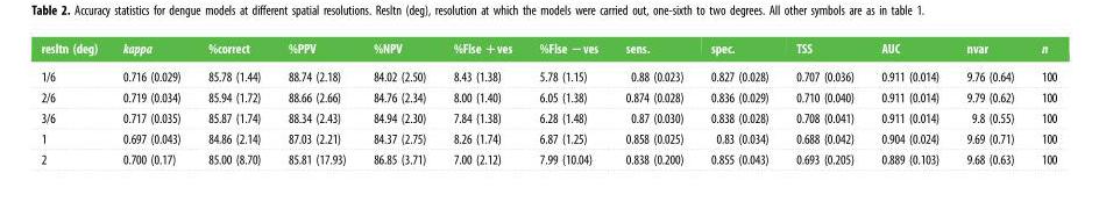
<table><thead><tr><td>resltn (deg)</td><td>kappa</td><td>%correct</td><td>%PPV</td><td>%NPV</td><td>%Flse +ves</td><td>%Flse −ves</td><td>sens.</td><td>spec.</td><td>TSS</td><td>AUC</td><td>nvar</td><td>n</td></tr></thead><tbody><tr><td>1/6</td><td>0.716 (0.029)</td><td>85.78 (1.44)</td><td>88.74 (2.18)</td><td>84.02 (2.50)</td><td>8.43 (1.38)</td><td>5.78 (1.15)</td><td>0.88 (0.023)</td><td>0.827 (0.028)</td><td>0.707 (0.036)</td><td>0.911 (0.014)</td><td>9.76 (0.64)</td><td>100</td></tr><tr><td>2/6</td><td>0.719 (0.034)</td><td>85.94 (1.72)</td><td>88.66 (2.66)</td><td>84.76 (2.34)</td><td>8.00 (1.40)</td><td>6.05 (1.38)</td><td>0.874 (0.028)</td><td>0.836 (0.029)</td><td>0.710 (0.040)</td><td>0.911 (0.014)</td><td>9.79 (0.62)</td><td>100</td></tr><tr><td>3/6</td><td>0.717 (0.035)</td><td>85.87 (1.74)</td><td>88.34 (2.43)</td><td>84.94 (2.30)</td><td>7.84 (1.38)</td><td>6.28 (1.48)</td><td>0.87 (0.030)</td><td>0.838 (0.028)</td><td>0.708 (0.041)</td><td>0.911 (0.014)</td><td>9.8 (0.55)</td><td>100</td></tr><tr><td>1</td><td>0.697 (0.043)</td><td>84.86 (2.14)</td><td>87.03 (2.21)</td><td>84.37 (2.75)</td><td>8.26 (1.74)</td><td>6.87 (1.25)</td><td>0.858 (0.025)</td><td>0.83 (0.034)</td><td>0.688 (0.042)</td><td>0.904 (0.024)</td><td>9.69 (0.71)</td><td>100</td></tr><tr><td>2</td><td>0.700 (0.17)</td><td>85.00 (8.70)</td><td>85.81 (17.93)</td><td>86.85 (3.71)</td><td>7.00 (2.12)</td><td>7.99 (10.04)</td><td>0.838 (0.200)</td><td>0.855 (0.043)</td><td>0.693 (0.205)</td><td>0.889 (0.103)</td><td>9.68 (0.63)</td><td>100</td></tr></tbody></table>